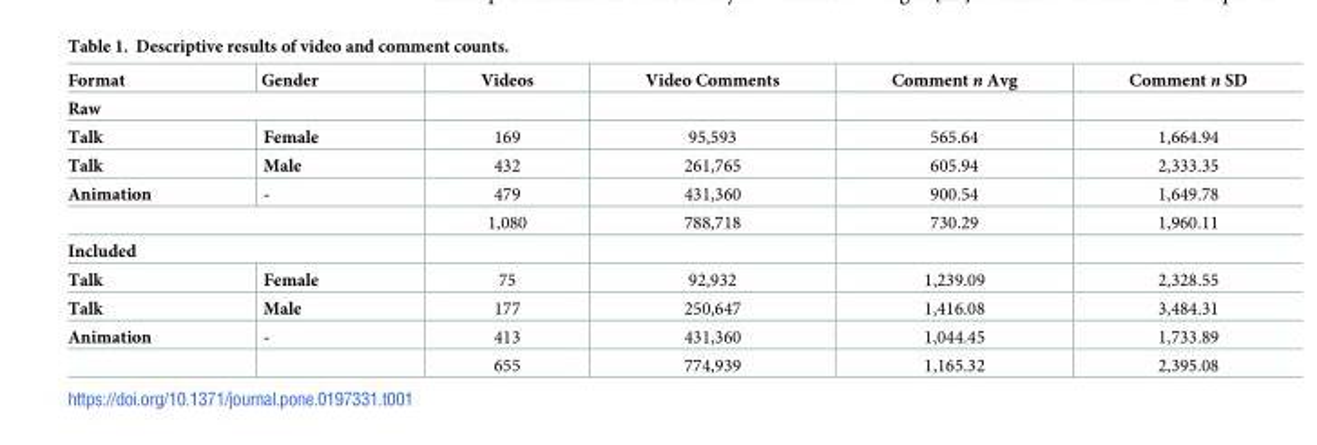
<table><thead><tr><td>Format</td><td>Gender</td><td>Videos</td><td>Video Comments</td><td>Comment n Avg</td><td>Comment n SD</td></tr></thead><tbody><tr><td colspan="6">Raw</td></tr><tr><td>Talk</td><td>Female</td><td>169</td><td>95,593</td><td>565.64</td><td>1,664.94</td></tr><tr><td>Talk</td><td>Male</td><td>432</td><td>261,765</td><td>605.94</td><td>2,333.35</td></tr><tr><td>Animation</td><td>-</td><td>479</td><td>431,360</td><td>900.54</td><td>1,649.78</td></tr><tr><td colspan="2"></td><td>1,080</td><td>788,718</td><td>730.29</td><td>1,960.11</td></tr><tr><td colspan="6">Included</td></tr><tr><td>Talk</td><td>Female</td><td>75</td><td>92,932</td><td>1,239.09</td><td>2,328.55</td></tr><tr><td>Talk</td><td>Male</td><td>177</td><td>250,647</td><td>1,416.08</td><td>3,484.31</td></tr><tr><td rowspan="2">Animation</td><td>-</td><td>413</td><td>431,360</td><td>1,044.45</td><td>1,733.89</td></tr><tr><td></td><td>655</td><td>774,939</td><td>1,165.32</td><td>2,395.08</td></tr></tbody></table>